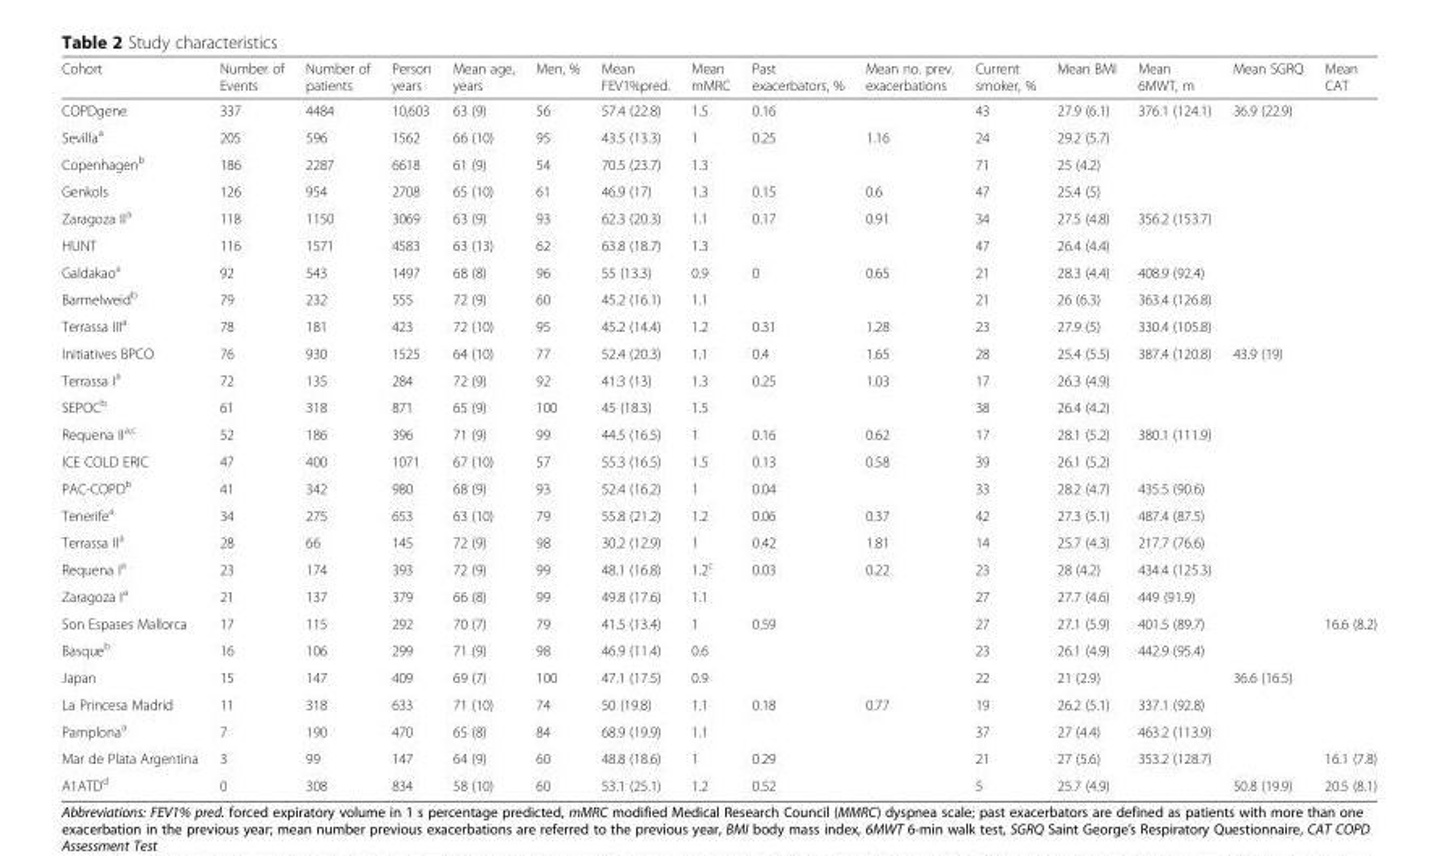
<table><thead><tr><td>Cohort</td><td>Number of Events</td><td>Number of patients</td><td>Person years</td><td>Mean age, years</td><td>Men, %</td><td>Mean FEV1%pred.</td><td>Mean mMRC</td><td>Past exacerbators, %</td><td>Mean no. prev. exacerbations</td><td>Current smoker, %</td><td>Mean BMI</td><td>Mean 6MWT, m</td><td>Mean SGRQ</td><td>Mean CAT</td></tr></thead><tbody><tr><td>COPDgene</td><td>337</td><td>4484</td><td>10,603</td><td>63 (9)</td><td>56</td><td>57.4 (22.8)</td><td>1.5</td><td>0.16</td><td></td><td>43</td><td>27.9 (6.1)</td><td>376.1 (124.1)</td><td>36.9 (22.9)</td><td></td></tr><tr><td>Sevilla<sup>a</sup></td><td>205</td><td>596</td><td>1562</td><td>66 (10)</td><td>95</td><td>43.5 (13.3)</td><td>1</td><td>0.25</td><td>1.16</td><td>24</td><td>29.2 (5.7)</td><td></td><td></td><td></td></tr><tr><td>Copenhagen<sup>b</sup></td><td>186</td><td>2287</td><td>6618</td><td>61 (9)</td><td>54</td><td>70.5 (23.7)</td><td>1.3</td><td></td><td></td><td>71</td><td>25 (4.2)</td><td></td><td></td><td></td></tr><tr><td>Genkols</td><td>126</td><td>954</td><td>2708</td><td>65 (10)</td><td>61</td><td>46.9 (17)</td><td>1.3</td><td>0.15</td><td>0.6</td><td>47</td><td>25.4 (5)</td><td></td><td></td><td></td></tr><tr><td>Zaragoza II<sup>a</sup></td><td>118</td><td>1150</td><td>3069</td><td>63 (9)</td><td>93</td><td>62.3 (20.3)</td><td>1.1</td><td>0.17</td><td>0.91</td><td>34</td><td>27.5 (4.8)</td><td>356.2 (153.7)</td><td></td><td></td></tr><tr><td>HUNT</td><td>116</td><td>1571</td><td>4583</td><td>63 (13)</td><td>62</td><td>63.8 (18.7)</td><td>1.3</td><td></td><td></td><td>47</td><td>26.4 (4.4)</td><td></td><td></td><td></td></tr><tr><td>Galdakao<sup>a</sup></td><td>92</td><td>543</td><td>1497</td><td>68 (8)</td><td>96</td><td>55 (13.3)</td><td>0.9</td><td>0</td><td>0.65</td><td>21</td><td>28.3 (4.4)</td><td>408.9 (92.4)</td><td></td><td></td></tr><tr><td>Barmelweid<sup>b</sup></td><td>79</td><td>232</td><td>555</td><td>72 (9)</td><td>60</td><td>45.2 (16.1)</td><td>1.1</td><td></td><td></td><td>21</td><td>26 (6.3)</td><td>363.4 (126.8)</td><td></td><td></td></tr><tr><td>Terrassa III<sup>a</sup></td><td>78</td><td>181</td><td>423</td><td>72 (10)</td><td>95</td><td>45.2 (14.4)</td><td>1.2</td><td>0.31</td><td>1.28</td><td>23</td><td>27.9 (5)</td><td>330.4 (105.8)</td><td></td><td></td></tr><tr><td>Initiatives BPCO</td><td>76</td><td>930</td><td>1525</td><td>64 (10)</td><td>77</td><td>52.4 (20.3)</td><td>1.1</td><td>0.4</td><td>1.65</td><td>28</td><td>25.4 (5.5)</td><td>387.4 (120.8)</td><td>43.9 (19)</td><td></td></tr><tr><td>Terrassa I<sup>a</sup></td><td>72</td><td>135</td><td>284</td><td>72 (9)</td><td>92</td><td>41.3 (13)</td><td>1.3</td><td>0.25</td><td>1.03</td><td>17</td><td>26.3 (4.9)</td><td></td><td></td><td></td></tr><tr><td>SEPOC<sup>b</sup></td><td>61</td><td>318</td><td>871</td><td>65 (9)</td><td>100</td><td>45 (18.3)</td><td>1.5</td><td></td><td></td><td>38</td><td>26.4 (4.2)</td><td></td><td></td><td></td></tr><tr><td>Requena II<sup>a,c</sup></td><td>52</td><td>186</td><td>396</td><td>71 (9)</td><td>99</td><td>44.5 (16.5)</td><td>1</td><td>0.16</td><td>0.62</td><td>17</td><td>28.1 (5.2)</td><td>380.1 (111.9)</td><td></td><td></td></tr><tr><td>ICE COLD ERIC</td><td>47</td><td>400</td><td>1071</td><td>67 (10)</td><td>57</td><td>55.3 (16.5)</td><td>1.5</td><td>0.13</td><td>0.58</td><td>39</td><td>26.1 (5.2)</td><td></td><td></td><td></td></tr><tr><td>PAC-COPD<sup>b</sup></td><td>41</td><td>342</td><td>980</td><td>68 (9)</td><td>93</td><td>52.4 (16.2)</td><td>1</td><td>0.04</td><td></td><td>33</td><td>28.2 (4.7)</td><td>435.5 (90.6)</td><td></td><td></td></tr><tr><td>Tenerife<sup>a</sup></td><td>34</td><td>275</td><td>653</td><td>63 (10)</td><td>79</td><td>55.8 (21.2)</td><td>1.2</td><td>0.06</td><td>0.37</td><td>42</td><td>27.3 (5.1)</td><td>487.4 (87.5)</td><td></td><td></td></tr><tr><td>Terrassa II<sup>a</sup></td><td>28</td><td>66</td><td>145</td><td>72 (9)</td><td>98</td><td>30.2 (12.9)</td><td>1</td><td>0.42</td><td>1.81</td><td>14</td><td>25.7 (4.3)</td><td>217.7 (76.6)</td><td></td><td></td></tr><tr><td>Requena I<sup>a</sup></td><td>23</td><td>174</td><td>393</td><td>72 (9)</td><td>99</td><td>48.1 (16.8)</td><td>1.2<sup>c</sup></td><td>0.03</td><td>0.22</td><td>23</td><td>28 (4.2)</td><td>434.4 (125.3)</td><td></td><td></td></tr><tr><td>Zaragoza I<sup>a</sup></td><td>21</td><td>137</td><td>379</td><td>66 (8)</td><td>99</td><td>49.8 (17.6)</td><td>1.1</td><td></td><td></td><td>27</td><td>27.7 (4.6)</td><td>449 (91.9)</td><td></td><td></td></tr><tr><td>Son Espases Mallorca</td><td>17</td><td>115</td><td>292</td><td>70 (7)</td><td>79</td><td>41.5 (13.4)</td><td>1</td><td>0.59</td><td></td><td>27</td><td>27.1 (5.9)</td><td>401.5 (89.7)</td><td></td><td>16.6 (8.2)</td></tr><tr><td>Basque<sup>b</sup></td><td>16</td><td>106</td><td>299</td><td>71 (9)</td><td>98</td><td>46.9 (11.4)</td><td>0.6</td><td></td><td></td><td>23</td><td>26.1 (4.9)</td><td>442.9 (95.4)</td><td></td><td></td></tr><tr><td>Japan</td><td>15</td><td>147</td><td>409</td><td>69 (7)</td><td>100</td><td>47.1 (17.5)</td><td>0.9</td><td></td><td></td><td>22</td><td>21 (2.9)</td><td></td><td>36.6 (16.5)</td><td></td></tr><tr><td>La Princesa Madrid</td><td>11</td><td>318</td><td>633</td><td>71 (10)</td><td>74</td><td>50 (19.8)</td><td>1.1</td><td>0.18</td><td>0.77</td><td>19</td><td>26.2 (5.1)</td><td>337.1 (92.8)</td><td></td><td></td></tr><tr><td>Pamplona<sup>a</sup></td><td>7</td><td>190</td><td>470</td><td>65 (8)</td><td>84</td><td>68.9 (19.9)</td><td>1.1</td><td></td><td></td><td>37</td><td>27 (4.4)</td><td>463.2 (113.9)</td><td></td><td></td></tr><tr><td>Mar de Plata Argentina</td><td>3</td><td>99</td><td>147</td><td>64 (9)</td><td>60</td><td>48.8 (18.6)</td><td>1</td><td>0.29</td><td></td><td>21</td><td>27 (5.6)</td><td>353.2 (128.7)</td><td></td><td>16.1 (7.8)</td></tr><tr><td>A1ATD<sup>d</sup></td><td>0</td><td>308</td><td>834</td><td>58 (10)</td><td>60</td><td>53.1 (25.1)</td><td>1.2</td><td>0.52</td><td></td><td>5</td><td>25.7 (4.9)</td><td></td><td>50.8 (19.9)</td><td>20.5 (8.1)</td></tr></tbody></table>